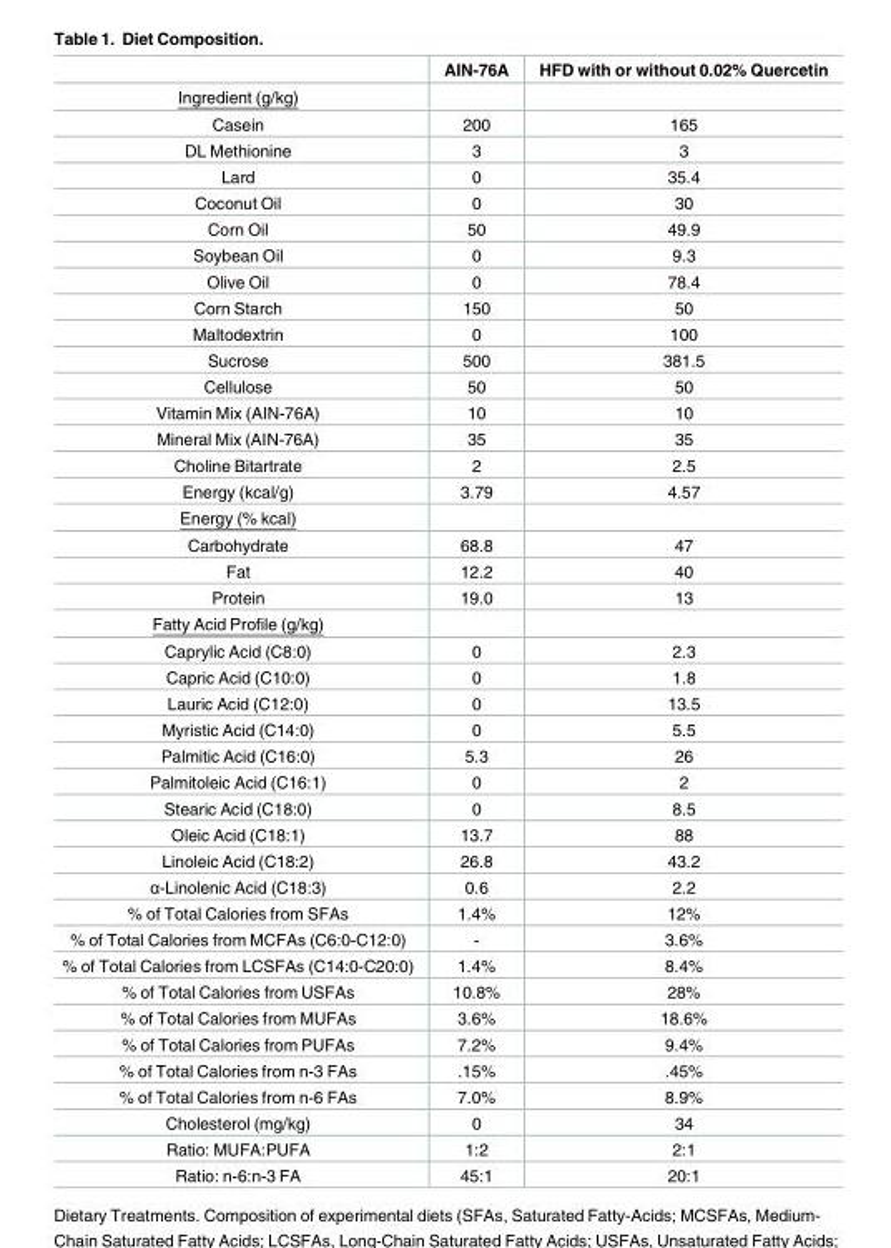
<table><thead><tr><td></td><td>AIN-76A</td><td>HFD with or without 0.02% Quercetin</td></tr></thead><tbody><tr><td colspan="3">Ingredient (g/kg)</td></tr><tr><td>Casein</td><td>200</td><td>165</td></tr><tr><td>DL Methionine</td><td>3</td><td>3</td></tr><tr><td>Lard</td><td>0</td><td>35.4</td></tr><tr><td>Coconut Oil</td><td>0</td><td>30</td></tr><tr><td>Corn Oil</td><td>50</td><td>49.9</td></tr><tr><td>Soybean Oil</td><td>0</td><td>9.3</td></tr><tr><td>Olive Oil</td><td>0</td><td>78.4</td></tr><tr><td>Corn Starch</td><td>150</td><td>50</td></tr><tr><td>Maltodextrin</td><td>0</td><td>100</td></tr><tr><td>Sucrose</td><td>500</td><td>381.5</td></tr><tr><td>Cellulose</td><td>50</td><td>50</td></tr><tr><td>Vitamin Mix (AIN-76A)</td><td>10</td><td>10</td></tr><tr><td>Mineral Mix (AIN-76A)</td><td>35</td><td>35</td></tr><tr><td>Choline Bitartrate</td><td>2</td><td>2.5</td></tr><tr><td>Energy (kcal/g)</td><td>3.79</td><td>4.57</td></tr><tr><td colspan="3">Energy (% kcal)</td></tr><tr><td>Carbohydrate</td><td>68.8</td><td>47</td></tr><tr><td>Fat</td><td>12.2</td><td>40</td></tr><tr><td>Protein</td><td>19.0</td><td>13</td></tr><tr><td colspan="3">Fatty Acid Profile (g/kg)</td></tr><tr><td>Caprylic Acid (C8:0)</td><td>0</td><td>2.3</td></tr><tr><td>Capric Acid (C10:0)</td><td>0</td><td>1.8</td></tr><tr><td>Lauric Acid (C12:0)</td><td>0</td><td>13.5</td></tr><tr><td>Myristic Acid (C14:0)</td><td>0</td><td>5.5</td></tr><tr><td>Palmitic Acid (C16:0)</td><td>5.3</td><td>26</td></tr><tr><td>Palmitoleic Acid (C16:1)</td><td>0</td><td>2</td></tr><tr><td>Stearic Acid (C18:0)</td><td>0</td><td>8.5</td></tr><tr><td>Oleic Acid (C18:1)</td><td>13.7</td><td>88</td></tr><tr><td>Linoleic Acid (C18:2)</td><td>26.8</td><td>43.2</td></tr><tr><td>α-Linolenic Acid (C18:3)</td><td>0.6</td><td>2.2</td></tr><tr><td>% of Total Calories from SFAs</td><td>1.4%</td><td>12%</td></tr><tr><td>% of Total Calories from MCFAs (C6:0-C12:0)</td><td>-</td><td>3.6%</td></tr><tr><td>% of Total Calories from LCSFAs (C14:0-C20:0)</td><td>1.4%</td><td>8.4%</td></tr><tr><td>% of Total Calories from USFAs</td><td>10.8%</td><td>28%</td></tr><tr><td>% of Total Calories from MUFAs</td><td>3.6%</td><td>18.6%</td></tr><tr><td>% of Total Calories from PUFAs</td><td>7.2%</td><td>9.4%</td></tr><tr><td>% of Total Calories from n-3 FAs</td><td>.15%</td><td>.45%</td></tr><tr><td>% of Total Calories from n-6 FAs</td><td>7.0%</td><td>8.9%</td></tr><tr><td>Cholesterol (mg/kg)</td><td>0</td><td>34</td></tr><tr><td>Ratio: MUFA:PUFA</td><td>1:2</td><td>2:1</td></tr><tr><td>Ratio: n-6:n-3 FA</td><td>45:1</td><td>20:1</td></tr></tbody></table>